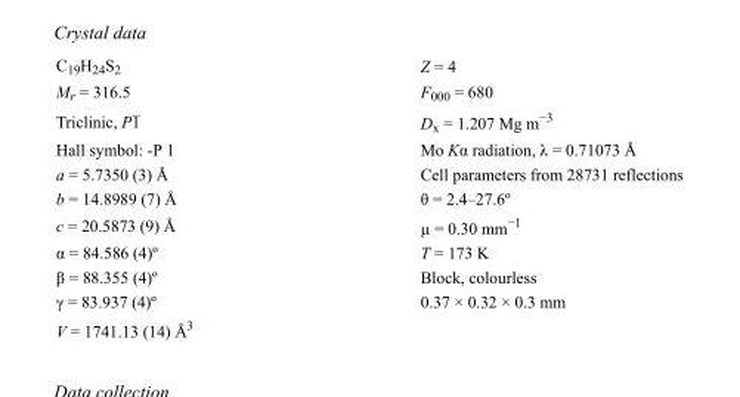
<table><tbody><tr><td>C<sub>19</sub>H<sub>24</sub>S<sub>2</sub></td><td>Z = 4</td></tr><tr><td>M<sub>r</sub> = 316.5</td><td>F000 = 680</td></tr><tr><td>Triclinic, P1</td><td>D<sub>x</sub> = 1.207 Mg m<sup>−3</sup></td></tr><tr><td>Hall symbol: -P 1</td><td>Mo Kα radiation, λ = 0.71073 Å</td></tr><tr><td>a = 5.7350 (3) Å</td><td>Cell parameters from 28731 reflections</td></tr><tr><td>b = 14.8989 (7) Å</td><td>θ = 2.4–27.6º</td></tr><tr><td>c = 20.5873 (9) Å</td><td>µ = 0.30 mm<sup>−1</sup></td></tr><tr><td>α = 84.586 (4)º</td><td>T = 173 K</td></tr><tr><td>β = 88.355 (4)º</td><td>Block, colourless</td></tr><tr><td>γ = 83.937 (4)º</td><td>0.37 × 0.32 × 0.3 mm</td></tr><tr><td>V = 1741.13 (14) Å<sup>3</sup></td><td></td></tr></tbody></table>